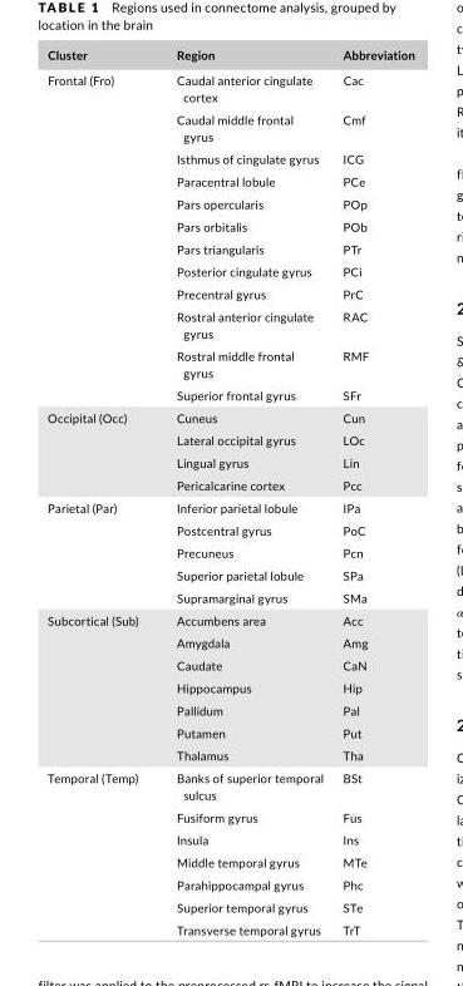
<table><thead><tr><td>Cluster</td><td>Region</td><td>Abbreviation</td></tr></thead><tbody><tr><td rowspan="12">Frontal (Fro)</td><td>Caudal anterior cingulate cortex</td><td>Cac</td></tr><tr><td>Caudal middle frontal gyrus</td><td>Cmf</td></tr><tr><td>Isthmus of cingulate gyrus</td><td>ICG</td></tr><tr><td>Paracentral lobule</td><td>PCe</td></tr><tr><td>Pars opercularis</td><td>POp</td></tr><tr><td>Pars orbitalis</td><td>POb</td></tr><tr><td>Pars triangularis</td><td>PTr</td></tr><tr><td>Posterior cingulate gyrus</td><td>PCi</td></tr><tr><td>Precentral gyrus</td><td>PrC</td></tr><tr><td>Rostral anterior cingulate gyrus</td><td>RAC</td></tr><tr><td>Rostral middle frontal gyrus</td><td>RMF</td></tr><tr><td>Superior frontal gyrus</td><td>SFr</td></tr><tr><td rowspan="4">Occipital (Occ)</td><td>Cuneus</td><td>Cun</td></tr><tr><td>Lateral occipital gyrus</td><td>LOc</td></tr><tr><td>Lingual gyrus</td><td>Lin</td></tr><tr><td>Pericalcarine cortex</td><td>Pcc</td></tr><tr><td rowspan="5">Parietal (Par)</td><td>Inferior parietal lobule</td><td>IPa</td></tr><tr><td>Postcentral gyrus</td><td>PoC</td></tr><tr><td>Precuneus</td><td>Pcn</td></tr><tr><td>Superior parietal lobule</td><td>SPa</td></tr><tr><td>Supramarginal gyrus</td><td>SMa</td></tr><tr><td rowspan="7">Subcortical (Sub)</td><td>Accumbens area</td><td>Acc</td></tr><tr><td>Amygdala</td><td>Amg</td></tr><tr><td>Caudate</td><td>CaN</td></tr><tr><td>Hippocampus</td><td>Hip</td></tr><tr><td>Pallidum</td><td>Pal</td></tr><tr><td>Putamen</td><td>Put</td></tr><tr><td>Thalamus</td><td>Tha</td></tr><tr><td rowspan="7">Temporal (Temp)</td><td>Banks of superior temporal sulcus</td><td>BSt</td></tr><tr><td>Fusiform gyrus</td><td>Fus</td></tr><tr><td>Insula</td><td>Ins</td></tr><tr><td>Middle temporal gyrus</td><td>MTe</td></tr><tr><td>Parahippocampal gyrus</td><td>Phc</td></tr><tr><td>Superior temporal gyrus</td><td>STe</td></tr><tr><td>Transverse temporal gyrus</td><td>TrT</td></tr></tbody></table>